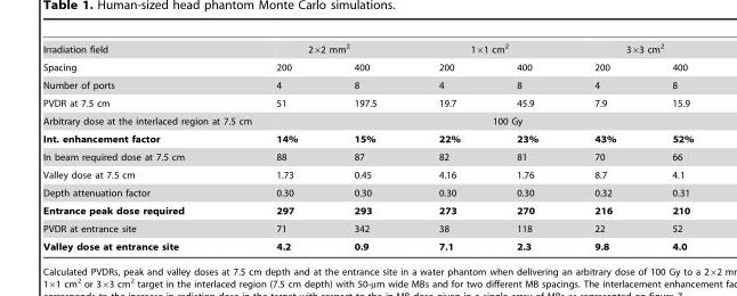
<table><tbody><tr><td>Irradiation field</td><td colspan="2">2×2 mm<sup>2</sup></td><td colspan="2">1×1 cm<sup>2</sup></td><td colspan="2">3×3 cm<sup>2</sup></td></tr><tr><td>Spacing</td><td>200</td><td>400</td><td>200</td><td>400</td><td>200</td><td>400</td></tr><tr><td>Number of ports</td><td>4</td><td>8</td><td>4</td><td>8</td><td>4</td><td>8</td></tr><tr><td>PVDR at 7.5 cm</td><td>51</td><td>197.5</td><td>19.7</td><td>45.9</td><td>7.9</td><td>15.9</td></tr><tr><td>Arbitrary dose at the interlaced region at 7.5 cm</td><td colspan="6">100 Gy</td></tr><tr><td>Int. enhancement factor</td><td>14%</td><td>15%</td><td>22%</td><td>23%</td><td>43%</td><td>52%</td></tr><tr><td>In beam required dose at 7.5 cm</td><td>88</td><td>87</td><td>82</td><td>81</td><td>70</td><td>66</td></tr><tr><td>Valley dose at 7.5 cm</td><td>1.73</td><td>0.45</td><td>4.16</td><td>1.76</td><td>8.7</td><td>4.1</td></tr><tr><td>Depth attenuation factor</td><td>0.30</td><td>0.30</td><td>0.30</td><td>0.30</td><td>0.32</td><td>0.31</td></tr><tr><td>Entrance peak dose required</td><td>297</td><td>293</td><td>273</td><td>270</td><td>216</td><td>210</td></tr><tr><td>PVDR at entrance site</td><td>71</td><td>342</td><td>38</td><td>118</td><td>22</td><td>52</td></tr><tr><td>Valley dose at entrance site</td><td>4.2</td><td>0.9</td><td>7.1</td><td>2.3</td><td>9.8</td><td>4.0</td></tr></tbody></table>